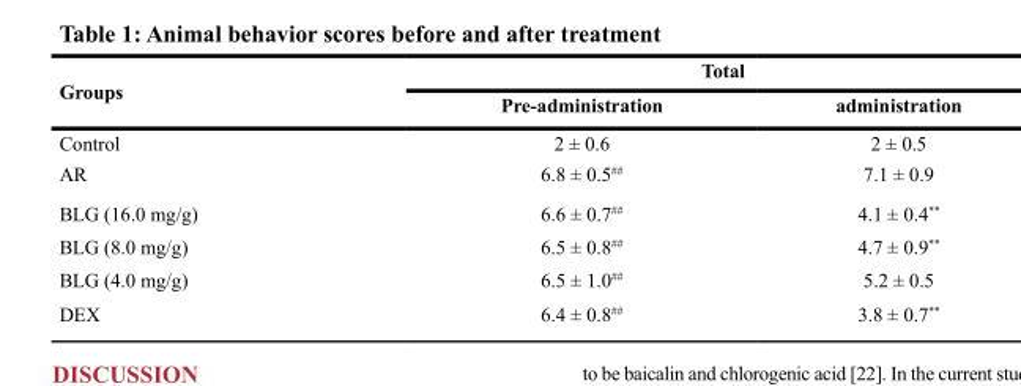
<table><thead><tr><td rowspan="2">Groups</td><td colspan="2">Total</td></tr><tr><td>Pre-administration</td><td>administration</td></tr></thead><tbody><tr><td>Control</td><td>2 ± 0.6</td><td>2 ± 0.5</td></tr><tr><td>AR</td><td>6.8 ± 0.5<sup>##</sup></td><td>7.1 ± 0.9</td></tr><tr><td>BLG (16.0 mg/g)</td><td>6.6 ± 0.7<sup>##</sup></td><td>4.1 ± 0.4**</td></tr><tr><td>BLG (8.0 mg/g)</td><td>6.5 ± 0.8<sup>##</sup></td><td>4.7 ± 0.9**</td></tr><tr><td>BLG (4.0 mg/g)</td><td>6.5 ± 1.0<sup>##</sup></td><td>5.2 ± 0.5</td></tr><tr><td>DEX</td><td>6.4 ± 0.8<sup>##</sup></td><td>3.8 ± 0.7**</td></tr></tbody></table>